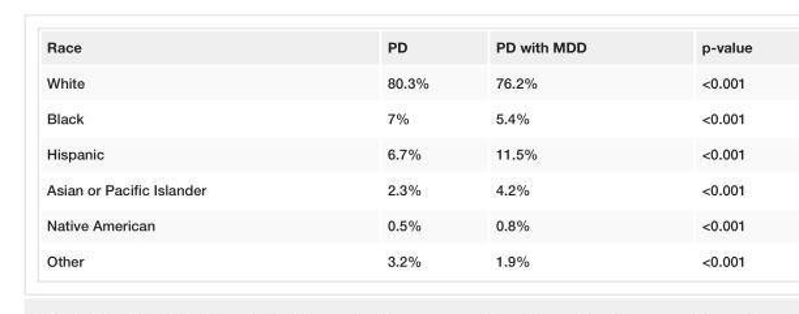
<table><tbody><tr><td>Race</td><td>PD</td><td>PD with MDD</td><td>p-value</td></tr><tr><td>White</td><td>80.3%</td><td>76.2%</td><td>&lt;0.001</td></tr><tr><td>Black</td><td>7%</td><td>5.4%</td><td>&lt;0.001</td></tr><tr><td>Hispanic</td><td>6.7%</td><td>11.5%</td><td>&lt;0.001</td></tr><tr><td>Asian or Pacific Islander</td><td>2.3%</td><td>4.2%</td><td>&lt;0.001</td></tr><tr><td>Native American</td><td>0.5%</td><td>0.8%</td><td>&lt;0.001</td></tr><tr><td>Other</td><td>3.2%</td><td>1.9%</td><td>&lt;0.001</td></tr></tbody></table>